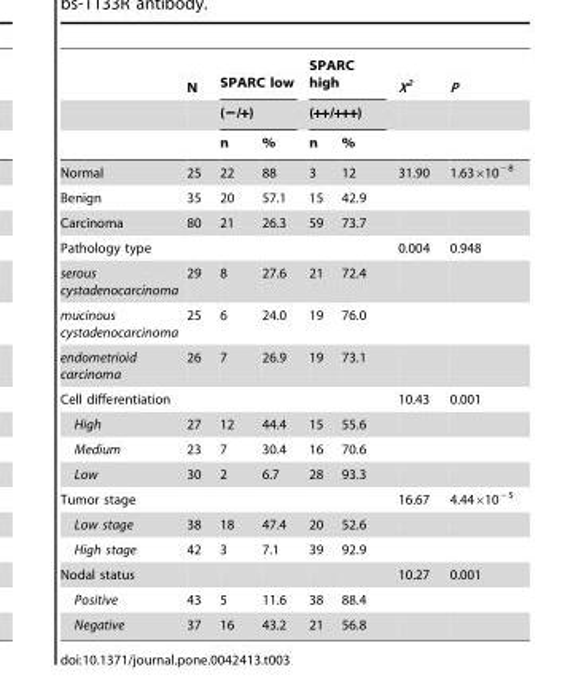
<table><thead><tr><td rowspan="3"></td><td rowspan="3">N</td><td rowspan="2" colspan="2">SPARC low (−/+)</td><td rowspan="2" colspan="2">SPARC high (++/+++)</td><td rowspan="3">X<sup>2</sup></td><td rowspan="3">P</td></tr><tr></tr><tr><td>n</td><td>%</td><td>n</td><td>%</td></tr></thead><tbody><tr><td>Normal</td><td>25</td><td>22</td><td>88</td><td>3</td><td>12</td><td>31.90</td><td>1.63×10<sup>−8</sup></td></tr><tr><td>Benign</td><td>35</td><td>20</td><td>57.1</td><td>15</td><td>42.9</td><td></td><td></td></tr><tr><td>Carcinoma</td><td>80</td><td>21</td><td>26.3</td><td>59</td><td>73.7</td><td></td><td></td></tr><tr><td>Pathology type</td><td></td><td></td><td></td><td></td><td></td><td>0.004</td><td>0.948</td></tr><tr><td>serous cystadenocarcinoma</td><td>29</td><td>8</td><td>27.6</td><td>21</td><td>72.4</td><td></td><td></td></tr><tr><td>mucinous cystadenocarcinoma</td><td>25</td><td>6</td><td>24.0</td><td>19</td><td>76.0</td><td></td><td></td></tr><tr><td>endometrioid carcinoma</td><td>26</td><td>7</td><td>26.9</td><td>19</td><td>73.1</td><td></td><td></td></tr><tr><td>Cell differentiation</td><td></td><td></td><td></td><td></td><td></td><td>10.43</td><td>0.001</td></tr><tr><td>High</td><td>27</td><td>12</td><td>44.4</td><td>15</td><td>55.6</td><td></td><td></td></tr><tr><td>Medium</td><td>23</td><td>7</td><td>30.4</td><td>16</td><td>70.6</td><td></td><td></td></tr><tr><td>Low</td><td>30</td><td>2</td><td>6.7</td><td>28</td><td>93.3</td><td></td><td></td></tr><tr><td>Tumor stage</td><td></td><td></td><td></td><td></td><td></td><td>16.67</td><td>4.44×10<sup>−5</sup></td></tr><tr><td>Low stage</td><td>38</td><td>18</td><td>47.4</td><td>20</td><td>52.6</td><td></td><td></td></tr><tr><td>High stage</td><td>42</td><td>3</td><td>7.1</td><td>39</td><td>92.9</td><td></td><td></td></tr><tr><td>Nodal status</td><td></td><td></td><td></td><td></td><td></td><td>10.27</td><td>0.001</td></tr><tr><td>Positive</td><td>43</td><td>5</td><td>11.6</td><td>38</td><td>88.4</td><td></td><td></td></tr><tr><td>Negative</td><td>37</td><td>16</td><td>43.2</td><td>21</td><td>56.8</td><td></td><td></td></tr></tbody></table>